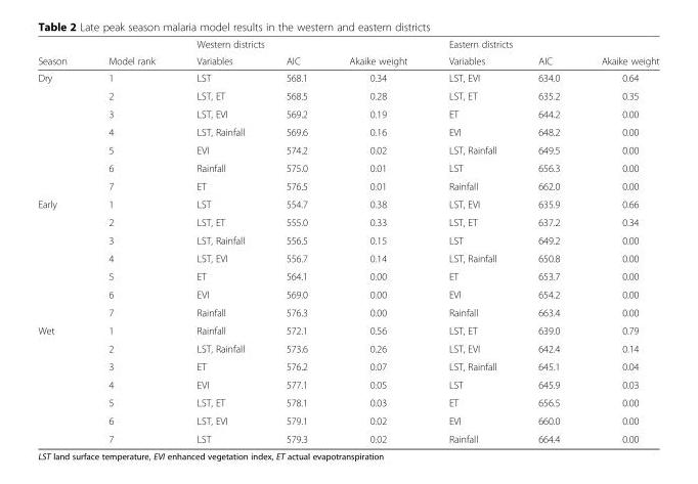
<table><thead><tr><td rowspan="2">Season</td><td rowspan="2">Model rank</td><td colspan="3">Western districts</td><td colspan="3">Eastern districts</td></tr><tr><td>Variables</td><td>AIC</td><td>Akaike weight</td><td>Variables</td><td>AIC</td><td>Akaike weight</td></tr></thead><tbody><tr><td rowspan="7">Dry</td><td>1</td><td>LST</td><td>568.1</td><td>0.34</td><td>LST, EVI</td><td>634.0</td><td>0.64</td></tr><tr><td>2</td><td>LST, ET</td><td>568.5</td><td>0.28</td><td>LST, ET</td><td>635.2</td><td>0.35</td></tr><tr><td>3</td><td>LST, EVI</td><td>569.2</td><td>0.19</td><td>ET</td><td>644.2</td><td>0.00</td></tr><tr><td>4</td><td>LST, Rainfall</td><td>569.6</td><td>0.16</td><td>EVI</td><td>648.2</td><td>0.00</td></tr><tr><td>5</td><td>EVI</td><td>574.2</td><td>0.02</td><td>LST, Rainfall</td><td>649.5</td><td>0.00</td></tr><tr><td>6</td><td>Rainfall</td><td>575.0</td><td>0.01</td><td>LST</td><td>656.3</td><td>0.00</td></tr><tr><td>7</td><td>ET</td><td>576.5</td><td>0.01</td><td>Rainfall</td><td>662.0</td><td>0.00</td></tr><tr><td rowspan="7">Early</td><td>1</td><td>LST</td><td>554.7</td><td>0.38</td><td>LST, EVI</td><td>635.9</td><td>0.66</td></tr><tr><td>2</td><td>LST, ET</td><td>555.0</td><td>0.33</td><td>LST, ET</td><td>637.2</td><td>0.34</td></tr><tr><td>3</td><td>LST, Rainfall</td><td>556.5</td><td>0.15</td><td>LST</td><td>649.2</td><td>0.00</td></tr><tr><td>4</td><td>LST, EVI</td><td>556.7</td><td>0.14</td><td>LST, Rainfall</td><td>650.8</td><td>0.00</td></tr><tr><td>5</td><td>ET</td><td>564.1</td><td>0.00</td><td>ET</td><td>653.7</td><td>0.00</td></tr><tr><td>6</td><td>EVI</td><td>569.0</td><td>0.00</td><td>EVI</td><td>654.2</td><td>0.00</td></tr><tr><td>7</td><td>Rainfall</td><td>576.3</td><td>0.00</td><td>Rainfall</td><td>663.4</td><td>0.00</td></tr><tr><td rowspan="7">Wet</td><td>1</td><td>Rainfall</td><td>572.1</td><td>0.56</td><td>LST, ET</td><td>639.0</td><td>0.79</td></tr><tr><td>2</td><td>LST, Rainfall</td><td>573.6</td><td>0.26</td><td>LST, EVI</td><td>642.4</td><td>0.14</td></tr><tr><td>3</td><td>ET</td><td>576.2</td><td>0.07</td><td>LST, Rainfall</td><td>645.1</td><td>0.04</td></tr><tr><td>4</td><td>EVI</td><td>577.1</td><td>0.05</td><td>LST</td><td>645.9</td><td>0.03</td></tr><tr><td>5</td><td>LST, ET</td><td>578.1</td><td>0.03</td><td>ET</td><td>656.5</td><td>0.00</td></tr><tr><td>6</td><td>LST, EVI</td><td>579.1</td><td>0.02</td><td>EVI</td><td>660.0</td><td>0.00</td></tr><tr><td>7</td><td>LST</td><td>579.3</td><td>0.02</td><td>Rainfall</td><td>664.4</td><td>0.00</td></tr></tbody></table>